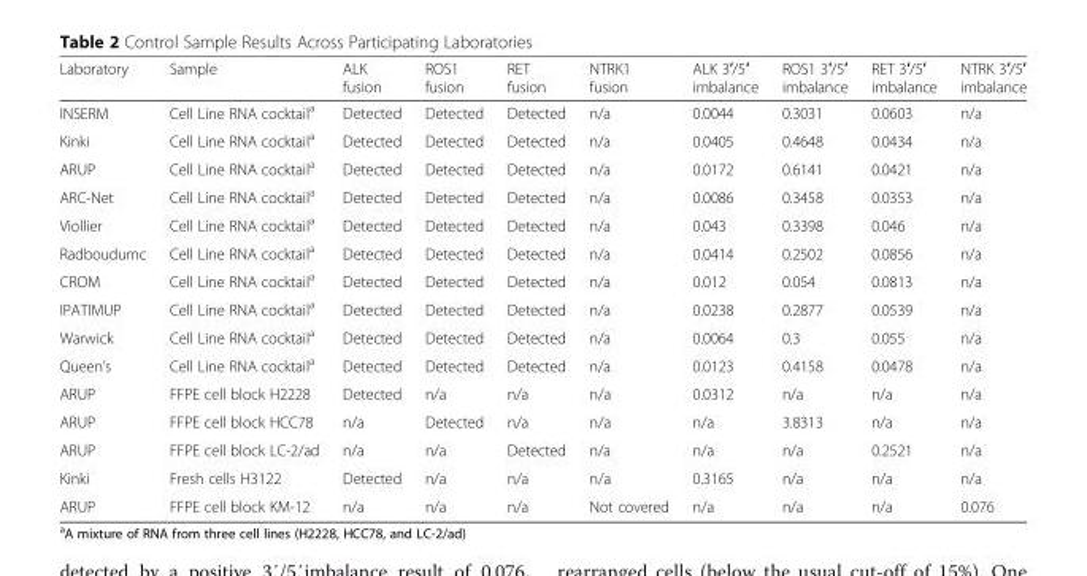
<table><thead><tr><td>Laboratory</td><td>Sample</td><td>ALK fusion</td><td>ROS1 fusion</td><td>RET fusion</td><td>NTRK1 fusion</td><td>ALK 3′/5′ imbalance</td><td>ROS1 3′/5′ imbalance</td><td>RET 3′/5′ imbalance</td><td>NTRK 3′/5′ imbalance</td></tr></thead><tbody><tr><td>INSERM</td><td>Cell Line RNA cocktail<sup>a</sup></td><td>Detected</td><td>Detected</td><td>Detected</td><td>n/a</td><td>0.0044</td><td>0.3031</td><td>0.0603</td><td>n/a</td></tr><tr><td>Kinki</td><td>Cell Line RNA cocktail<sup>a</sup></td><td>Detected</td><td>Detected</td><td>Detected</td><td>n/a</td><td>0.0405</td><td>0.4648</td><td>0.0434</td><td>n/a</td></tr><tr><td>ARUP</td><td>Cell Line RNA cocktail<sup>a</sup></td><td>Detected</td><td>Detected</td><td>Detected</td><td>n/a</td><td>0.0172</td><td>0.6141</td><td>0.0421</td><td>n/a</td></tr><tr><td>ARC-Net</td><td>Cell Line RNA cocktail<sup>a</sup></td><td>Detected</td><td>Detected</td><td>Detected</td><td>n/a</td><td>0.0086</td><td>0.3458</td><td>0.0353</td><td>n/a</td></tr><tr><td>Viollier</td><td>Cell Line RNA cocktail<sup>a</sup></td><td>Detected</td><td>Detected</td><td>Detected</td><td>n/a</td><td>0.043</td><td>0.3398</td><td>0.046</td><td>n/a</td></tr><tr><td>Radboudumc</td><td>Cell Line RNA cocktail<sup>a</sup></td><td>Detected</td><td>Detected</td><td>Detected</td><td>n/a</td><td>0.0414</td><td>0.2502</td><td>0.0856</td><td>n/a</td></tr><tr><td>CROM</td><td>Cell Line RNA cocktail<sup>a</sup></td><td>Detected</td><td>Detected</td><td>Detected</td><td>n/a</td><td>0.012</td><td>0.054</td><td>0.0813</td><td>n/a</td></tr><tr><td>IPATIMUP</td><td>Cell Line RNA cocktail<sup>a</sup></td><td>Detected</td><td>Detected</td><td>Detected</td><td>n/a</td><td>0.0238</td><td>0.2877</td><td>0.0539</td><td>n/a</td></tr><tr><td>Warwick</td><td>Cell Line RNA cocktail<sup>a</sup></td><td>Detected</td><td>Detected</td><td>Detected</td><td>n/a</td><td>0.0064</td><td>0.3</td><td>0.055</td><td>n/a</td></tr><tr><td>Queen’s</td><td>Cell Line RNA cocktail<sup>a</sup></td><td>Detected</td><td>Detected</td><td>Detected</td><td>n/a</td><td>0.0123</td><td>0.4158</td><td>0.0478</td><td>n/a</td></tr><tr><td>ARUP</td><td>FFPE cell block H2228</td><td>Detected</td><td>n/a</td><td>n/a</td><td>n/a</td><td>0.0312</td><td>n/a</td><td>n/a</td><td>n/a</td></tr><tr><td>ARUP</td><td>FFPE cell block HCC78</td><td>n/a</td><td>Detected</td><td>n/a</td><td>n/a</td><td>n/a</td><td>3.8313</td><td>n/a</td><td>n/a</td></tr><tr><td>ARUP</td><td>FFPE cell block LC-2/ad</td><td>n/a</td><td>n/a</td><td>Detected</td><td>n/a</td><td>n/a</td><td>n/a</td><td>0.2521</td><td>n/a</td></tr><tr><td>Kinki</td><td>Fresh cells H3122</td><td>Detected</td><td>n/a</td><td>n/a</td><td>n/a</td><td>0.3165</td><td>n/a</td><td>n/a</td><td>n/a</td></tr><tr><td>ARUP</td><td>FFPE cell block KM-12</td><td>n/a</td><td>n/a</td><td>n/a</td><td>Not covered</td><td>n/a</td><td>n/a</td><td>n/a</td><td>0.076</td></tr></tbody></table>